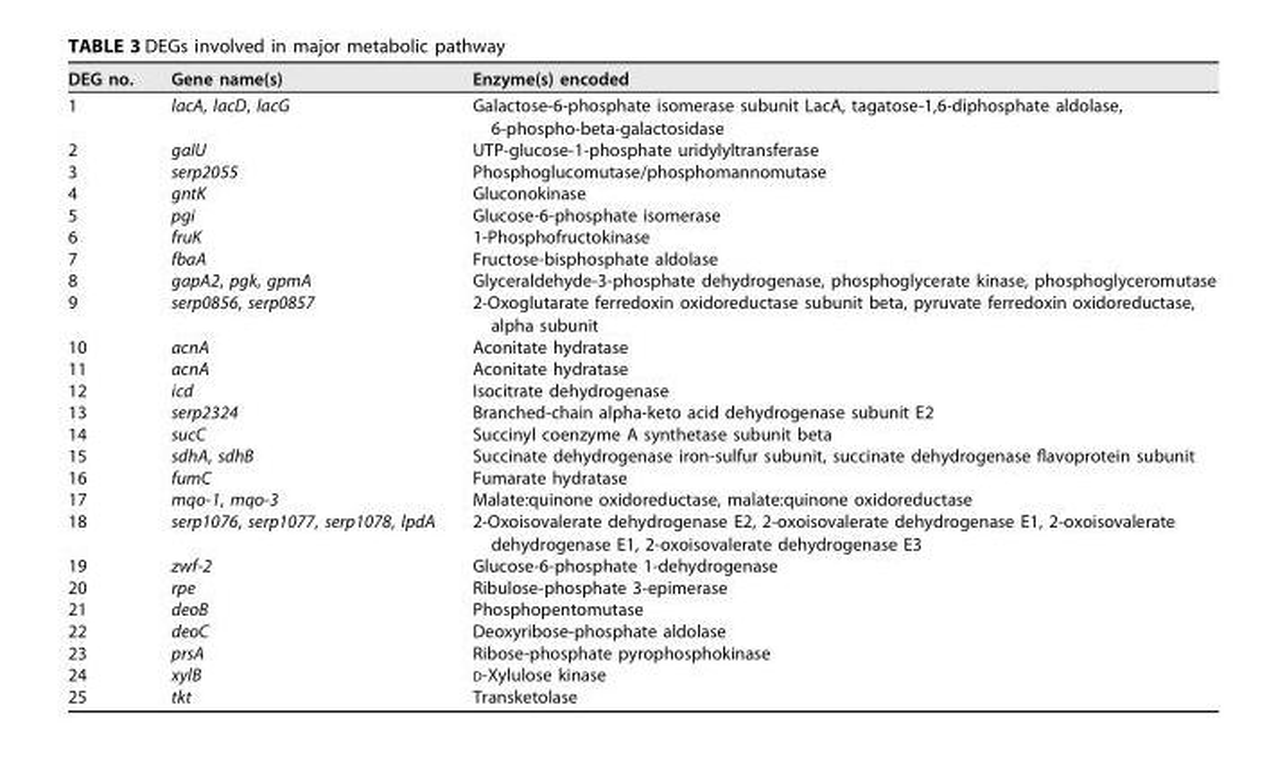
<table><thead><tr><td>DEG no.</td><td>Gene name(s)</td><td>Enzyme(s) encoded</td></tr></thead><tbody><tr><td>1</td><td>lacA, lacD, lacG</td><td>Galactose-6-phosphate isomerase subunit LacA, tagatose-1,6-diphosphate aldolase, 6-phospho-beta-galactosidase</td></tr><tr><td>2</td><td>galU</td><td>UTP-glucose-1-phosphate uridylyltransferase</td></tr><tr><td>3</td><td>serp2055</td><td>Phosphoglucomutase/phosphomannomutase</td></tr><tr><td>4</td><td>gntK</td><td>Gluconokinase</td></tr><tr><td>5</td><td>pgi</td><td>Glucose-6-phosphate isomerase</td></tr><tr><td>6</td><td>fruK</td><td>1-Phosphofructokinase</td></tr><tr><td>7</td><td>fbaA</td><td>Fructose-bisphosphate aldolase</td></tr><tr><td>8</td><td>gapA2, pgk, gpmA</td><td>Glyceraldehyde-3-phosphate dehydrogenase, phosphoglycerate kinase, phosphoglyceromutase</td></tr><tr><td>9</td><td>serp0856, serp0857</td><td>2-Oxoglutarate ferredoxin oxidoreductase subunit beta, pyruvate ferredoxin oxidoreductase, alpha subunit</td></tr><tr><td>10</td><td>acnA</td><td>Aconitate hydratase</td></tr><tr><td>11</td><td>acnA</td><td>Aconitate hydratase</td></tr><tr><td>12</td><td>icd</td><td>Isocitrate dehydrogenase</td></tr><tr><td>13</td><td>serp2324</td><td>Branched-chain alpha-keto acid dehydrogenase subunit E2</td></tr><tr><td>14</td><td>sucC</td><td>Succinyl coenzyme A synthetase subunit beta</td></tr><tr><td>15</td><td>sdhA, sdhB</td><td>Succinate dehydrogenase iron-sulfur subunit, succinate dehydrogenase flavoprotein subunit</td></tr><tr><td>16</td><td>fumC</td><td>Fumarate hydratase</td></tr><tr><td>17</td><td>mqo-1, mqo-3</td><td>Malate:quinone oxidoreductase, malate:quinone oxidoreductase</td></tr><tr><td>18</td><td>serp1076, serp1077, serp1078, lpdA</td><td>2-Oxoisovalerate dehydrogenase E2, 2-oxoisovalerate dehydrogenase E1, 2-oxoisovalerate dehydrogenase E1, 2-oxoisovalerate dehydrogenase E3</td></tr><tr><td>19</td><td>zwf-2</td><td>Glucose-6-phosphate 1-dehydrogenase</td></tr><tr><td>20</td><td>rpe</td><td>Ribulose-phosphate 3-epimerase</td></tr><tr><td>21</td><td>deoB</td><td>Phosphopentomutase</td></tr><tr><td>22</td><td>deoC</td><td>Deoxyribose-phosphate aldolase</td></tr><tr><td>23</td><td>prsA</td><td>Ribose-phosphate pyrophosphokinase</td></tr><tr><td>24</td><td>xylB</td><td>D-Xylulose kinase</td></tr><tr><td>25</td><td>tkt</td><td>Transketolase</td></tr></tbody></table>